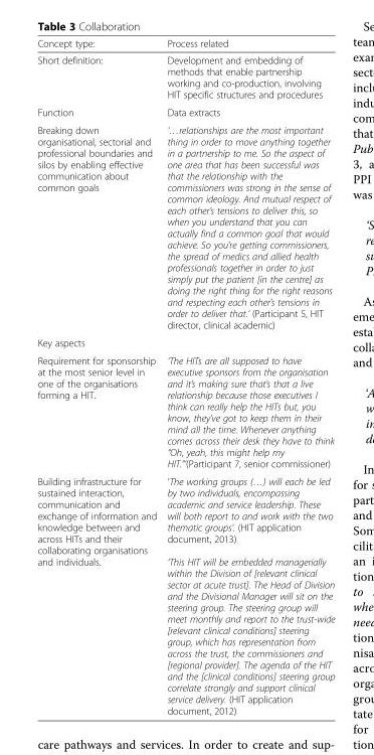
<table><thead><tr><td>Concept type:</td><td>Process related</td></tr></thead><tbody><tr><td>Short definition:</td><td>Development and embedding of methods that enable partnership working and co-production, involving HIT specific structures and procedures</td></tr><tr><td>Function</td><td>Data extracts</td></tr><tr><td>Breaking down organisational, sectorial and professional boundaries and silos by enabling effective communication about common goals</td><td>‘…relationships are the most important thing in order to move anything together in a partnership to me. So the aspect of one area that has been successful was that the relationship with the commissioners was strong in the sense of common ideology. And mutual respect of each other’s tensions to deliver this, so when you understand that you can actually find a common goal that would achieve. So you’re getting commissioners, the spread of medics and allied health professionals together in order to just simply put the patient [in the centre] as doing the right thing for the right reasons and respecting each other’s tensions in order to deliver that.’ (Participant 5, HIT director, clinical academic)</td></tr><tr><td colspan="2">Key aspects</td></tr><tr><td>Requirement for sponsorship at the most senior level in one of the organisations forming a HIT.</td><td>‘The HITs are all supposed to have executive sponsors from the organisation and it’s making sure that’s that a live relationship because those executives I think can really help the HITs but, you know, they’ve got to keep them in their mind all the time. Whenever anything comes across their desk they have to think “Oh, yeah, this might help my HIT.”’(Participant 7, senior commissioner)</td></tr><tr><td>Building infrastructure for sustained interaction, communication and exchange of information and knowledge between and across HITs and their collaborating organisations and individuals.</td><td>‘The working groups (…) will each be led by two individuals, encompassing academic and service leadership. These will both report to and work with the two thematic groups’. (HIT application document, 2013) ‘This HIT will be embedded managerially within the Division of [relevant clinical sector at acute trust]. The Head of Division and the Divisional Manager will sit on the steering group. The steering group will meet monthly and report to the trust-wide [relevant clinical conditions] steering group, which has representation from across the trust, the commissioners and [regional provider]. The agenda of the HIT and the [clinical conditions] steering group correlate strongly and support clinical service delivery. (HIT application document, 2012)</td></tr></tbody></table>